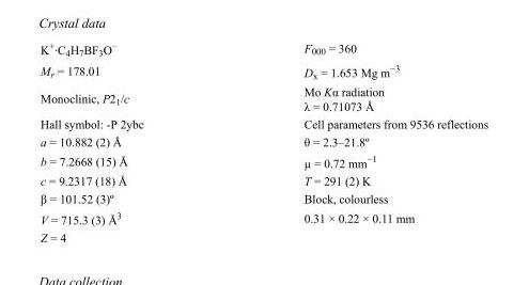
<table><tbody><tr><td>K<sup>+</sup>·C<sub>4</sub>H<sub>7</sub>BF<sub>3</sub>O<sup>–</sup></td><td>F<sub>000</sub> = 360</td></tr><tr><td>M<sub>r</sub> = 178.01</td><td>D<sub>x</sub> = 1.653 Mg m<sup>−3</sup></td></tr><tr><td>Monoclinic, P2<sub>1</sub>/c</td><td>Mo Kα radiation λ = 0.71073 Å</td></tr><tr><td>Hall symbol: -P 2ybc</td><td>Cell parameters from 9536 reflections</td></tr><tr><td>a = 10.882 (2) Å</td><td>θ = 2.3–21.8º</td></tr><tr><td>b = 7.2668 (15) Å</td><td>µ = 0.72 mm<sup>−1</sup></td></tr><tr><td>c = 9.2317 (18) Å</td><td>T = 291 (2) K</td></tr><tr><td>β = 101.52 (3)º</td><td>Block, colourless</td></tr><tr><td>V = 715.3 (3) Å<sup>3</sup></td><td>0.31 × 0.22 × 0.11 mm</td></tr><tr><td>Z = 4</td><td></td></tr></tbody></table>